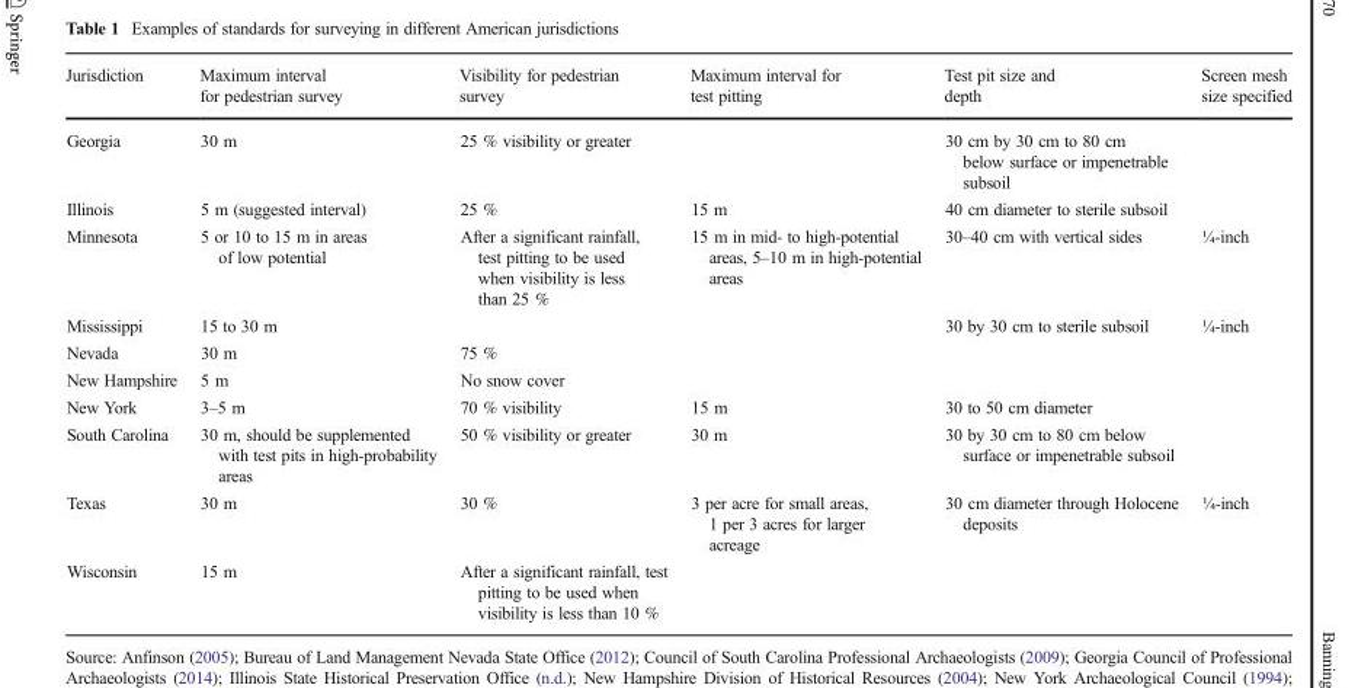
<table><thead><tr><td>Jurisdiction</td><td>Maximum interval for pedestrian survey</td><td>Visibility for pedestrian survey</td><td>Maximum interval for test pitting</td><td>Test pit size and depth</td><td>Screen mesh size specified</td></tr></thead><tbody><tr><td>Georgia</td><td>30 m</td><td>25 % visibility or greater</td><td></td><td>30 cm by 30 cm to 80 cm below surface or impenetrable subsoil</td><td></td></tr><tr><td>Illinois</td><td>5 m (suggested interval)</td><td>25 %</td><td>15 m</td><td>40 cm diameter to sterile subsoil</td><td></td></tr><tr><td>Minnesota</td><td>5 or 10 to 15 m in areas of low potential</td><td>After a significant rainfall, test pitting to be used when visibility is less than 25 %</td><td>15 m in mid- to high-potential areas, 5–10 m in high-potential areas</td><td>30–40 cm with vertical sides</td><td>¼-inch</td></tr><tr><td>Mississippi</td><td>15 to 30 m</td><td></td><td></td><td>30 by 30 cm to sterile subsoil</td><td>¼-inch</td></tr><tr><td>Nevada</td><td>30 m</td><td>75 %</td><td></td><td></td><td></td></tr><tr><td>New Hampshire</td><td>5 m</td><td>No snow cover</td><td></td><td></td><td></td></tr><tr><td>New York</td><td>3–5 m</td><td>70 % visibility</td><td>15 m</td><td>30 to 50 cm diameter</td><td></td></tr><tr><td>South Carolina</td><td>30 m, should be supplemented with test pits in high-probability areas</td><td>50 % visibility or greater</td><td>30 m</td><td>30 by 30 cm to 80 cm below surface or impenetrable subsoil</td><td></td></tr><tr><td>Texas</td><td>30 m</td><td>30 %</td><td>3 per acre for small areas, 1 per 3 acres for larger acreage</td><td>30 cm diameter through Holocene deposits</td><td>¼-inch</td></tr><tr><td>Wisconsin</td><td>15 m</td><td>After a significant rainfall, test pitting to be used when visibility is less than 10 %</td><td></td><td></td><td></td></tr></tbody></table>